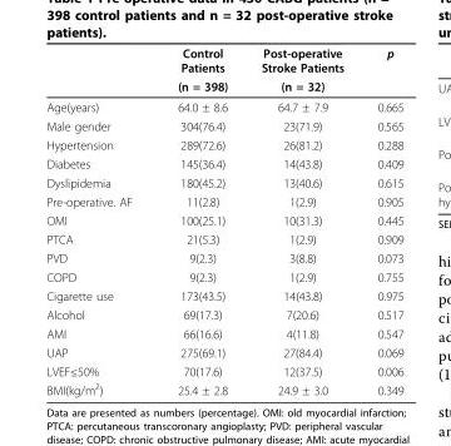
<table><thead><tr><td rowspan="2"></td><td rowspan="2">Control Patients (n = 398)</td><td rowspan="2">Post-operative Stroke Patients (n = 32)</td><td rowspan="2">p</td></tr><tr></tr></thead><tbody><tr><td>Age(years)</td><td>64.0 ± 8.6</td><td>64.7 ± 7.9</td><td>0.665</td></tr><tr><td>Male gender</td><td>304(76.4)</td><td>23(71.9)</td><td>0.565</td></tr><tr><td>Hypertension</td><td>289(72.6)</td><td>26(81.2)</td><td>0.288</td></tr><tr><td>Diabetes</td><td>145(36.4)</td><td>14(43.8)</td><td>0.409</td></tr><tr><td>Dyslipidemia</td><td>180(45.2)</td><td>13(40.6)</td><td>0.615</td></tr><tr><td>Pre-operative. AF</td><td>11(2.8)</td><td>1(2.9)</td><td>0.905</td></tr><tr><td>OMI</td><td>100(25.1)</td><td>10(31.3)</td><td>0.445</td></tr><tr><td>PTCA</td><td>21(5.3)</td><td>1(2.9)</td><td>0.909</td></tr><tr><td>PVD</td><td>9(2.3)</td><td>3(8.8)</td><td>0.073</td></tr><tr><td>COPD</td><td>9(2.3)</td><td>1(2.9)</td><td>0.755</td></tr><tr><td>Cigarette use</td><td>173(43.5)</td><td>14(43.8)</td><td>0.975</td></tr><tr><td>Alcohol</td><td>69(17.3)</td><td>7(20.6)</td><td>0.517</td></tr><tr><td>AMI</td><td>66(16.6)</td><td>4(11.8)</td><td>0.547</td></tr><tr><td>UAP</td><td>275(69.1)</td><td>27(84.4)</td><td>0.069</td></tr><tr><td>LVEF≤50%</td><td>70(17.6)</td><td>12(37.5)</td><td>0.006</td></tr><tr><td>BMI(kg/m<sup>2</sup>)</td><td>25.4 ± 2.8</td><td>24.9 ± 3.0</td><td>0.349</td></tr></tbody></table>